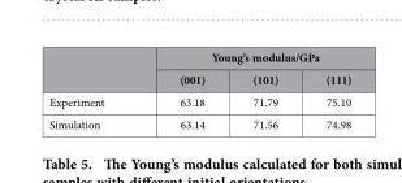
<table><thead><tr><td rowspan="2"></td><td colspan="3">Young’s modulus/GPa</td></tr><tr><td>(001)</td><td>(101)</td><td>(111)</td></tr></thead><tbody><tr><td>Experiment</td><td>63.18</td><td>71.79</td><td>75.10</td></tr><tr><td>Simulation</td><td>63.14</td><td>71.56</td><td>74.98</td></tr></tbody></table>